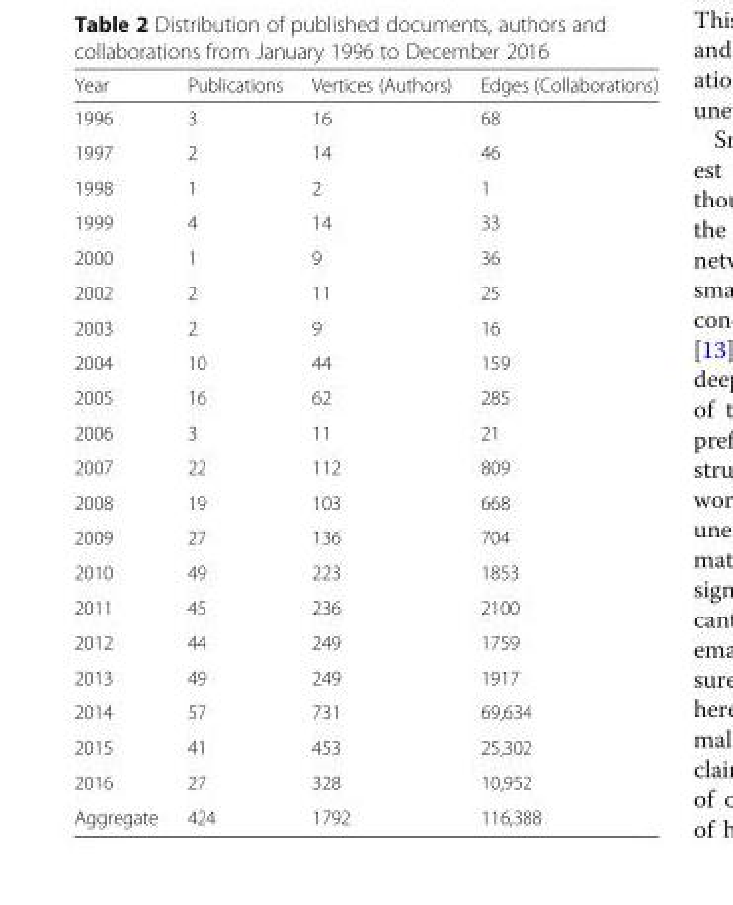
<table><thead><tr><td>Year</td><td>Publications</td><td>Vertices (Authors)</td><td>Edges (Collaborations)</td></tr></thead><tbody><tr><td>1996</td><td>3</td><td>16</td><td>68</td></tr><tr><td>1997</td><td>2</td><td>14</td><td>46</td></tr><tr><td>1998</td><td>1</td><td>2</td><td>1</td></tr><tr><td>1999</td><td>4</td><td>14</td><td>33</td></tr><tr><td>2000</td><td>1</td><td>9</td><td>36</td></tr><tr><td>2002</td><td>2</td><td>11</td><td>25</td></tr><tr><td>2003</td><td>2</td><td>9</td><td>16</td></tr><tr><td>2004</td><td>10</td><td>44</td><td>159</td></tr><tr><td>2005</td><td>16</td><td>62</td><td>285</td></tr><tr><td>2006</td><td>3</td><td>11</td><td>21</td></tr><tr><td>2007</td><td>22</td><td>112</td><td>809</td></tr><tr><td>2008</td><td>19</td><td>103</td><td>668</td></tr><tr><td>2009</td><td>27</td><td>136</td><td>704</td></tr><tr><td>2010</td><td>49</td><td>223</td><td>1853</td></tr><tr><td>2011</td><td>45</td><td>236</td><td>2100</td></tr><tr><td>2012</td><td>44</td><td>249</td><td>1759</td></tr><tr><td>2013</td><td>49</td><td>249</td><td>1917</td></tr><tr><td>2014</td><td>57</td><td>731</td><td>69,634</td></tr><tr><td>2015</td><td>41</td><td>453</td><td>25,302</td></tr><tr><td>2016</td><td>27</td><td>328</td><td>10,952</td></tr><tr><td>Aggregate</td><td>424</td><td>1792</td><td>116,388</td></tr></tbody></table>